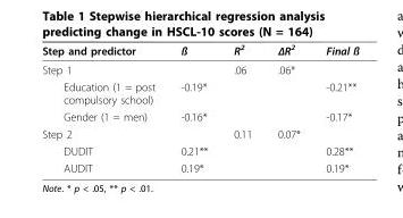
<table><thead><tr><td>Step and predictor</td><td>ß</td><td>R<sup>2</sup></td><td>ΔR<sup>2</sup></td><td>Final ß</td></tr></thead><tbody><tr><td>Step 1</td><td></td><td>.06</td><td>.06*</td><td></td></tr><tr><td>Education (1 = post compulsory school)</td><td>-0.19*</td><td></td><td></td><td>-0.21**</td></tr><tr><td>Gender (1 = men)</td><td>-0.16*</td><td></td><td></td><td>-0.17*</td></tr><tr><td>Step 2</td><td></td><td>0.11</td><td>0.07*</td><td></td></tr><tr><td>DUDIT</td><td>0.21**</td><td></td><td></td><td>0.28**</td></tr><tr><td>AUDIT</td><td>0.19*</td><td></td><td></td><td>0.19*</td></tr></tbody></table>